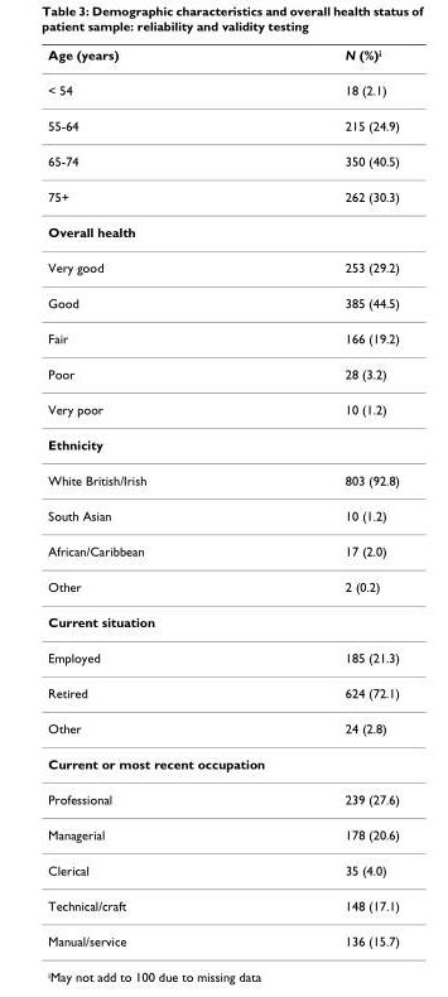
<table><thead><tr><td>Age (years)</td><td>N (%)<sup>i</sup></td></tr></thead><tbody><tr><td>&lt; 54</td><td>18 (2.1)</td></tr><tr><td>55-64</td><td>215 (24.9)</td></tr><tr><td>65-74</td><td>350 (40.5)</td></tr><tr><td>75+</td><td>262 (30.3)</td></tr><tr><td colspan="2">Overall health</td></tr><tr><td>Very good</td><td>253 (29.2)</td></tr><tr><td>Good</td><td>385 (44.5)</td></tr><tr><td>Fair</td><td>166 (19.2)</td></tr><tr><td>Poor</td><td>28 (3.2)</td></tr><tr><td>Very poor</td><td>10 (1.2)</td></tr><tr><td colspan="2">Ethnicity</td></tr><tr><td>White British/Irish</td><td>803 (92.8)</td></tr><tr><td>South Asian</td><td>10 (1.2)</td></tr><tr><td>African/Caribbean</td><td>17 (2.0)</td></tr><tr><td>Other</td><td>2 (0.2)</td></tr><tr><td colspan="2">Current situation</td></tr><tr><td>Employed</td><td>185 (21.3)</td></tr><tr><td>Retired</td><td>624 (72.1)</td></tr><tr><td>Other</td><td>24 (2.8)</td></tr><tr><td colspan="2">Current or most recent occupation</td></tr><tr><td>Professional</td><td>239 (27.6)</td></tr><tr><td>Managerial</td><td>178 (20.6)</td></tr><tr><td>Clerical</td><td>35 (4.0)</td></tr><tr><td>Technical/craft</td><td>148 (17.1)</td></tr><tr><td>Manual/service</td><td>136 (15.7)</td></tr></tbody></table>